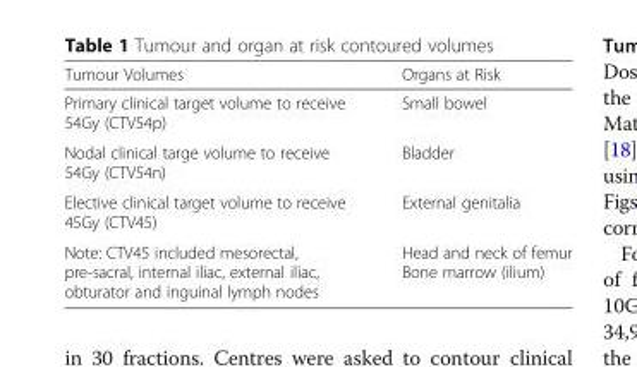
<table><thead><tr><td>Tumour Volumes</td><td>Organs at Risk</td></tr></thead><tbody><tr><td>Primary clinical target volume to receive 54Gy (CTV54p)</td><td>Small bowel</td></tr><tr><td>Nodal clinical targe volume to receive 54Gy (CTV54n)</td><td>Bladder</td></tr><tr><td>Elective clinical target volume to receive 45Gy (CTV45)</td><td>External genitalia</td></tr><tr><td>Note: CTV45 included mesorectal, pre-sacral, internal iliac, external iliac, obturator and inguinal lymph nodes</td><td>Head and neck of femur Bone marrow (ilium)</td></tr></tbody></table>